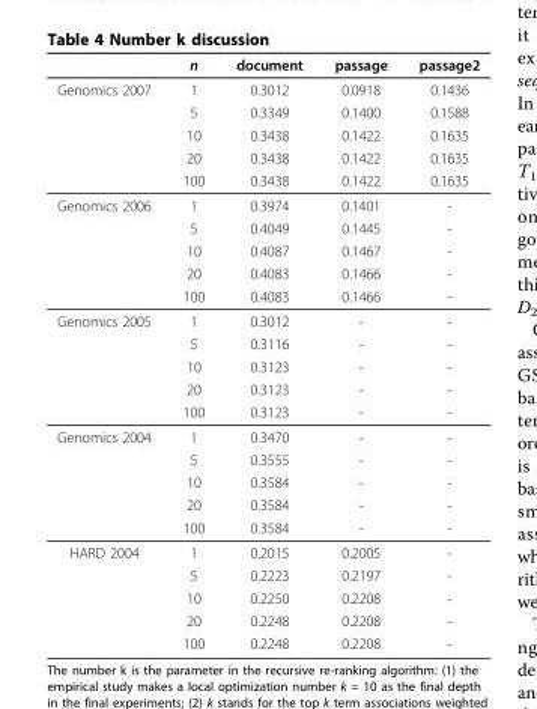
<table><thead><tr><td></td><td>n</td><td>document</td><td>passage</td><td>passage2</td></tr></thead><tbody><tr><td rowspan="5">Genomics 2007</td><td>1</td><td>0.3012</td><td>0.0918</td><td>0.1436</td></tr><tr><td>5</td><td>0.3349</td><td>0.1400</td><td>0.1588</td></tr><tr><td>10</td><td>0.3438</td><td>0.1422</td><td>0.1635</td></tr><tr><td>20</td><td>0.3438</td><td>0.1422</td><td>0.1635</td></tr><tr><td>100</td><td>0.3438</td><td>0.1422</td><td>0.1635</td></tr><tr><td rowspan="5">Genomics 2006</td><td>1</td><td>0.3974</td><td>0.1401</td><td>-</td></tr><tr><td>5</td><td>0.4049</td><td>0.1445</td><td>-</td></tr><tr><td>10</td><td>0.4087</td><td>0.1467</td><td>-</td></tr><tr><td>20</td><td>0.4083</td><td>0.1466</td><td>-</td></tr><tr><td>100</td><td>0.4083</td><td>0.1466</td><td>-</td></tr><tr><td rowspan="5">Genomics 2005</td><td>1</td><td>0.3012</td><td>-</td><td>-</td></tr><tr><td>5</td><td>0.3116</td><td>-</td><td>-</td></tr><tr><td>10</td><td>0.3123</td><td>-</td><td>-</td></tr><tr><td>20</td><td>0.3123</td><td>-</td><td>-</td></tr><tr><td>100</td><td>0.3123</td><td>-</td><td>-</td></tr><tr><td rowspan="5">Genomics 2004</td><td>1</td><td>0.3470</td><td>-</td><td>-</td></tr><tr><td>5</td><td>0.3555</td><td>-</td><td>-</td></tr><tr><td>10</td><td>0.3584</td><td>-</td><td>-</td></tr><tr><td>20</td><td>0.3584</td><td>-</td><td>-</td></tr><tr><td>100</td><td>0.3584</td><td>-</td><td>-</td></tr><tr><td rowspan="5">HARD 2004</td><td>1</td><td>0.2015</td><td>0.2005</td><td>-</td></tr><tr><td>5</td><td>0.2223</td><td>0.2197</td><td>-</td></tr><tr><td>10</td><td>0.2250</td><td>0.2208</td><td>-</td></tr><tr><td>20</td><td>0.2248</td><td>0.2208</td><td>-</td></tr><tr><td>100</td><td>0.2248</td><td>0.2208</td><td>-</td></tr></tbody></table>